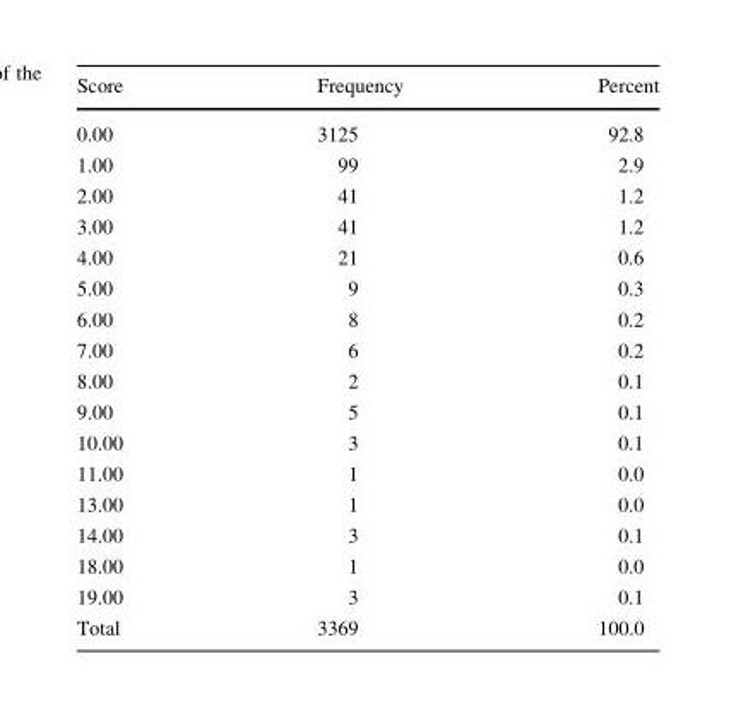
<table><thead><tr><td>Score</td><td>Frequency</td><td>Percent</td></tr></thead><tbody><tr><td>0.00</td><td>3125</td><td>92.8</td></tr><tr><td>1.00</td><td>99</td><td>2.9</td></tr><tr><td>2.00</td><td>41</td><td>1.2</td></tr><tr><td>3.00</td><td>41</td><td>1.2</td></tr><tr><td>4.00</td><td>21</td><td>0.6</td></tr><tr><td>5.00</td><td>9</td><td>0.3</td></tr><tr><td>6.00</td><td>8</td><td>0.2</td></tr><tr><td>7.00</td><td>6</td><td>0.2</td></tr><tr><td>8.00</td><td>2</td><td>0.1</td></tr><tr><td>9.00</td><td>5</td><td>0.1</td></tr><tr><td>10.00</td><td>3</td><td>0.1</td></tr><tr><td>11.00</td><td>1</td><td>0.0</td></tr><tr><td>13.00</td><td>1</td><td>0.0</td></tr><tr><td>14.00</td><td>3</td><td>0.1</td></tr><tr><td>18.00</td><td>1</td><td>0.0</td></tr><tr><td>19.00</td><td>3</td><td>0.1</td></tr><tr><td>Total</td><td>3369</td><td>100.0</td></tr></tbody></table>